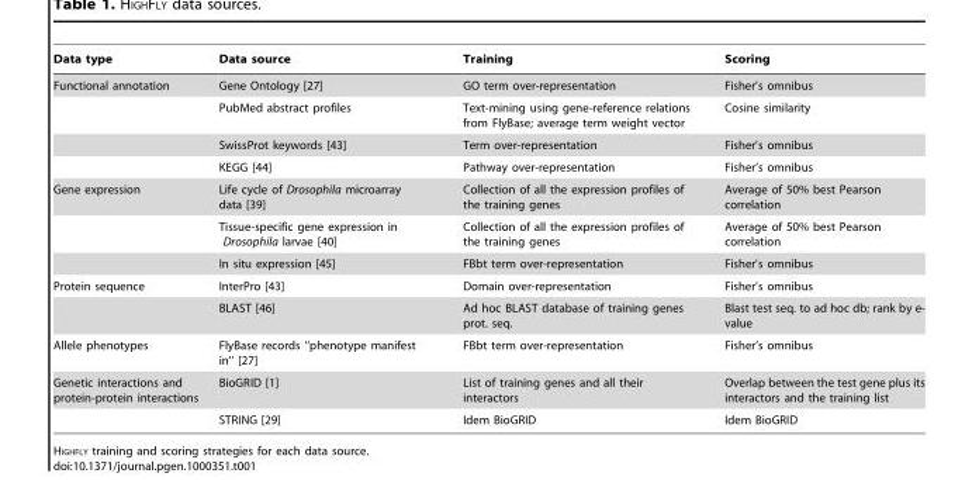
<table><thead><tr><td>Data type</td><td>Data source</td><td>Training</td><td>Scoring</td></tr></thead><tbody><tr><td rowspan="4">Functional annotation</td><td>Gene Ontology [27]</td><td>GO term over-representation</td><td>Fisher’s omnibus</td></tr><tr><td>PubMed abstract profiles</td><td>Text-mining using gene-reference relations from FlyBase; average term weight vector</td><td>Cosine similarity</td></tr><tr><td>SwissProt keywords [43]</td><td>Term over-representation</td><td>Fisher’s omnibus</td></tr><tr><td>KEGG [44]</td><td>Pathway over-representation</td><td>Fisher’s omnibus</td></tr><tr><td rowspan="3">Gene expression</td><td>Life cycle of Drosophila microarray data [39]</td><td>Collection of all the expression profiles of the training genes</td><td>Average of 50% best Pearson correlation</td></tr><tr><td>Tissue-specific gene expression in Drosophila larvae [40]</td><td>Collection of all the expression profiles of the training genes</td><td>Average of 50% best Pearson correlation</td></tr><tr><td>In situ expression [45]</td><td>FBbt term over-representation</td><td>Fisher’s omnibus</td></tr><tr><td rowspan="2">Protein sequence</td><td>InterPro [43]</td><td>Domain over-representation</td><td>Fisher’s omnibus</td></tr><tr><td>BLAST [46]</td><td>Ad hoc BLAST database of training genes prot. seq.</td><td>Blast test seq. to ad hoc db; rank by e- value</td></tr><tr><td>Allele phenotypes</td><td>FlyBase records ‘‘phenotype manifest in’’ [27]</td><td>FBbt term over-representation</td><td>Fisher’s omnibus</td></tr><tr><td rowspan="2">Genetic interactions and protein-protein interactions</td><td>BioGRID [1]</td><td>List of training genes and all their interactors</td><td>Overlap between the test gene plus its interactors and the training list</td></tr><tr><td>STRING [29]</td><td>Idem BioGRID</td><td>Idem BioGRID</td></tr></tbody></table>